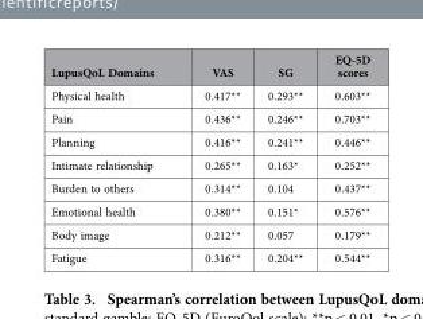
<table><thead><tr><td>LupusQoL Domains</td><td>VAS</td><td>SG</td><td>EQ-5D scores</td></tr></thead><tbody><tr><td>Physical health</td><td>0.417**</td><td>0.293**</td><td>0.603**</td></tr><tr><td>Pain</td><td>0.436**</td><td>0.246**</td><td>0.703**</td></tr><tr><td>Planning</td><td>0.416**</td><td>0.241**</td><td>0.446**</td></tr><tr><td>Intimate relationship</td><td>0.265**</td><td>0.163*</td><td>0.252**</td></tr><tr><td>Burden to others</td><td>0.314**</td><td>0.104</td><td>0.437**</td></tr><tr><td>Emotional health</td><td>0.380**</td><td>0.151*</td><td>0.576**</td></tr><tr><td>Body image</td><td>0.212**</td><td>0.057</td><td>0.179**</td></tr><tr><td>Fatigue</td><td>0.316**</td><td>0.204**</td><td>0.544**</td></tr></tbody></table>